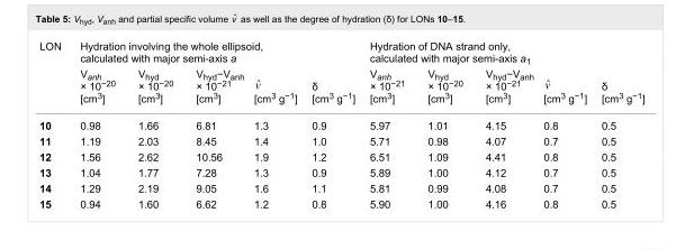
<table><tbody><tr><td rowspan="2">LON</td><td colspan="5">Hydration involving the whole ellipsoid, calculated with major semi-axis a</td><td colspan="5">Hydration of DNA strand only, calculated with major semi-axis a<sub>1</sub></td></tr><tr><td>V<sub>anh</sub> × 10<sup>−20</sup> [cm<sup>3</sup>]</td><td>V<sub>hyd</sub> × 10<sup>−20</sup> [cm<sup>3</sup>]</td><td>V<sub>hyd</sub>−V<sub>anh</sub> × 10<sup>−21</sup> [cm<sup>3</sup>]</td><td>[cm<sup>3</sup> g<sup>−1</sup>]</td><td>δ [cm<sup>3</sup> g<sup>−1</sup>]</td><td>V<sub>anh</sub> × 10<sup>−21</sup> [cm<sup>3</sup>]</td><td>V<sub>hyd</sub> × 10<sup>−20</sup> [cm<sup>3</sup>]</td><td>V<sub>hyd</sub>−V<sub>anh</sub> × 10<sup>−21</sup> [cm<sup>3</sup>]</td><td>[cm<sup>3</sup> g<sup>−1</sup>]</td><td>δ [cm<sup>3</sup> g<sup>−1</sup>]</td></tr><tr><td>10</td><td>0.98</td><td>1.66</td><td>6.81</td><td>1.3</td><td>0.9</td><td>5.97</td><td>1.01</td><td>4.15</td><td>0.8</td><td>0.5</td></tr><tr><td>11</td><td>1.19</td><td>2.03</td><td>8.45</td><td>1.4</td><td>1.0</td><td>5.71</td><td>0.98</td><td>4.07</td><td>0.7</td><td>0.5</td></tr><tr><td>12</td><td>1.56</td><td>2.62</td><td>10.56</td><td>1.9</td><td>1.2</td><td>6.51</td><td>1.09</td><td>4.41</td><td>0.8</td><td>0.5</td></tr><tr><td>13</td><td>1.04</td><td>1.77</td><td>7.28</td><td>1.3</td><td>0.9</td><td>5.89</td><td>1.00</td><td>4.12</td><td>0.7</td><td>0.5</td></tr><tr><td>14</td><td>1.29</td><td>2.19</td><td>9.05</td><td>1.6</td><td>1.1</td><td>5.81</td><td>0.99</td><td>4.08</td><td>0.7</td><td>0.5</td></tr><tr><td>15</td><td>0.94</td><td>1.60</td><td>6.62</td><td>1.2</td><td>0.8</td><td>5.90</td><td>1.00</td><td>4.16</td><td>0.8</td><td>0.5</td></tr></tbody></table>